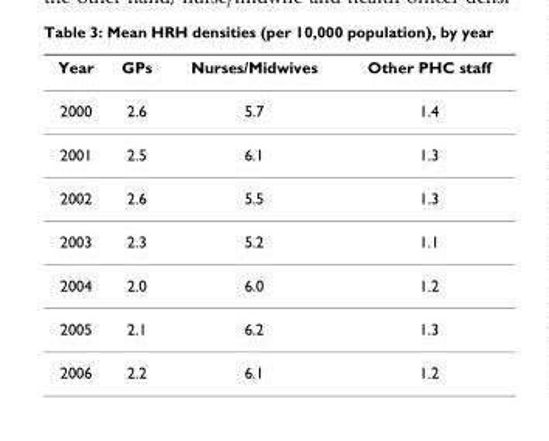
<table><thead><tr><td>Year</td><td>GPs</td><td>Nurses/Midwives</td><td>Other PHC staff</td></tr></thead><tbody><tr><td>2000</td><td>2.6</td><td>5.7</td><td>1.4</td></tr><tr><td>2001</td><td>2.5</td><td>6.1</td><td>1.3</td></tr><tr><td>2002</td><td>2.6</td><td>5.5</td><td>1.3</td></tr><tr><td>2003</td><td>2.3</td><td>5.2</td><td>1.1</td></tr><tr><td>2004</td><td>2.0</td><td>6.0</td><td>1.2</td></tr><tr><td>2005</td><td>2.1</td><td>6.2</td><td>1.3</td></tr><tr><td>2006</td><td>2.2</td><td>6.1</td><td>1.2</td></tr></tbody></table>